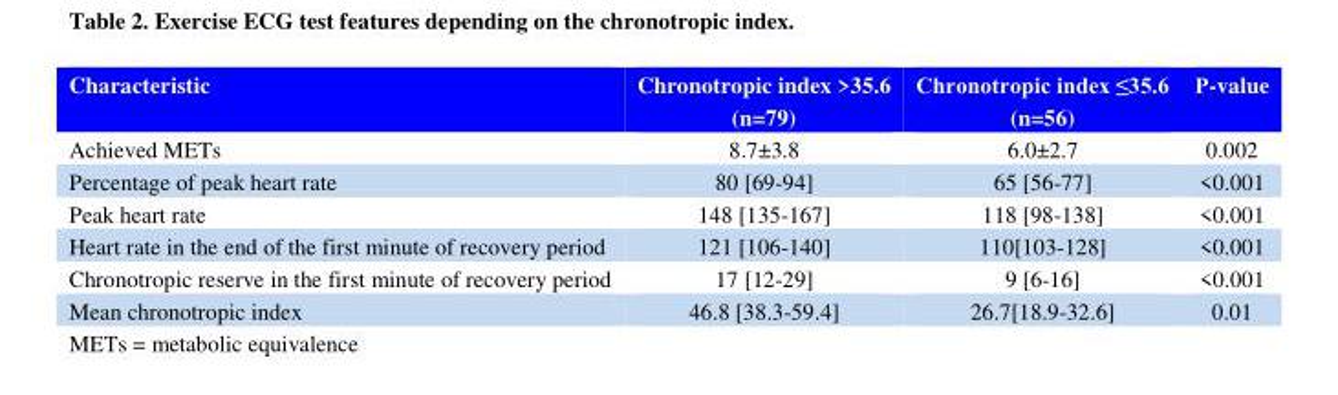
<table><thead><tr><td>Characteristic</td><td>Chronotropic index &gt;35.6 (n=79)</td><td>Chronotropic index ≤35.6 (n=56)</td><td>Р-value</td></tr></thead><tbody><tr><td>Achieved METs</td><td>8.7±3.8</td><td>6.0±2.7</td><td>0.002</td></tr><tr><td>Percentage of peak heart rate</td><td>80 [69-94]</td><td>65 [56-77]</td><td>&lt;0.001</td></tr><tr><td>Peak heart rate</td><td>148 [135-167]</td><td>118 [98-138]</td><td>&lt;0.001</td></tr><tr><td>Heart rate in the end of the first minute of recovery period</td><td>121 [106-140]</td><td>110[103-128]</td><td>&lt;0.001</td></tr><tr><td>Chronotropic reserve in the first minute of recovery period</td><td>17 [12-29]</td><td>9 [6-16]</td><td>&lt;0.001</td></tr><tr><td>Mean chronotropic index</td><td>46.8 [38.3-59.4]</td><td>26.7[18.9-32.6]</td><td>0.01</td></tr></tbody></table>